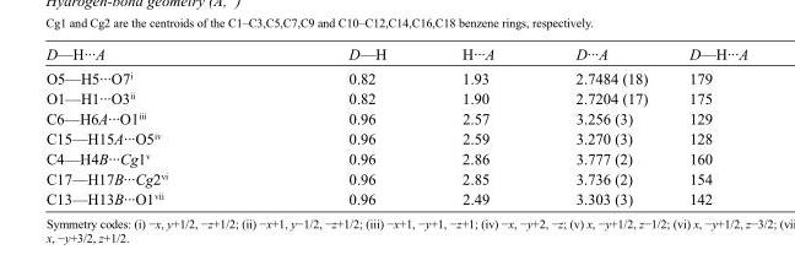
<table><tbody><tr><td>D—H···A</td><td>D—H</td><td>H···A</td><td>D···A</td><td>D—H···A</td></tr><tr><td>O5—H5···O7<sup>i</sup></td><td>0.82</td><td>1.93</td><td>2.7484 (18)</td><td>179</td></tr><tr><td>O1—H1···O3<sup>ii</sup></td><td>0.82</td><td>1.90</td><td>2.7204 (17)</td><td>175</td></tr><tr><td>C6—H6A···O1<sup>iii</sup></td><td>0.96</td><td>2.57</td><td>3.256 (3)</td><td>129</td></tr><tr><td>C15—H15A···O5<sup>iv</sup></td><td>0.96</td><td>2.59</td><td>3.270 (3)</td><td>128</td></tr><tr><td>C4—H4B···Cg1<sup>v</sup></td><td>0.96</td><td>2.86</td><td>3.777 (2)</td><td>160</td></tr><tr><td>C17—H17B···Cg2<sup>vi</sup></td><td>0.96</td><td>2.85</td><td>3.736 (2)</td><td>154</td></tr><tr><td>C13—H13B···O1<sup>vii</sup></td><td>0.96</td><td>2.49</td><td>3.303 (3)</td><td>142</td></tr></tbody></table>